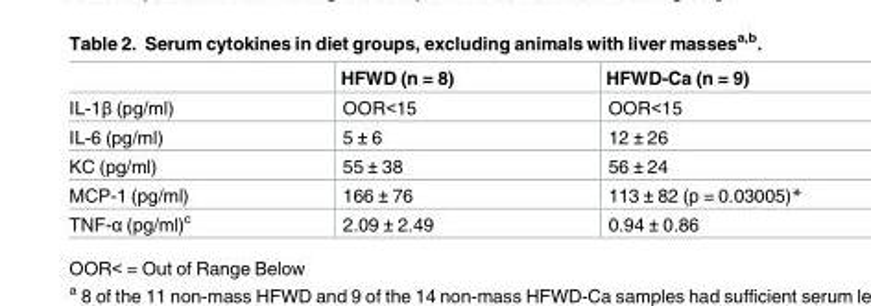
<table><thead><tr><td></td><td>HFWD (n = 8)</td><td>HFWD-Ca (n = 9)</td></tr></thead><tbody><tr><td>IL-1β (pg/ml)</td><td>OOR&lt;15</td><td>OOR&lt;15</td></tr><tr><td>IL-6 (pg/ml)</td><td>5 ± 6</td><td>12 ± 26</td></tr><tr><td>KC (pg/ml)</td><td>55 ± 38</td><td>56 ± 24</td></tr><tr><td>MCP-1 (pg/ml)</td><td>166 ± 76</td><td>113 ± 82 (p = 0.03005)*</td></tr><tr><td>TNF-α (pg/ml)<sup>c</sup></td><td>2.09 ± 2.49</td><td>0.94 ± 0.86</td></tr></tbody></table>